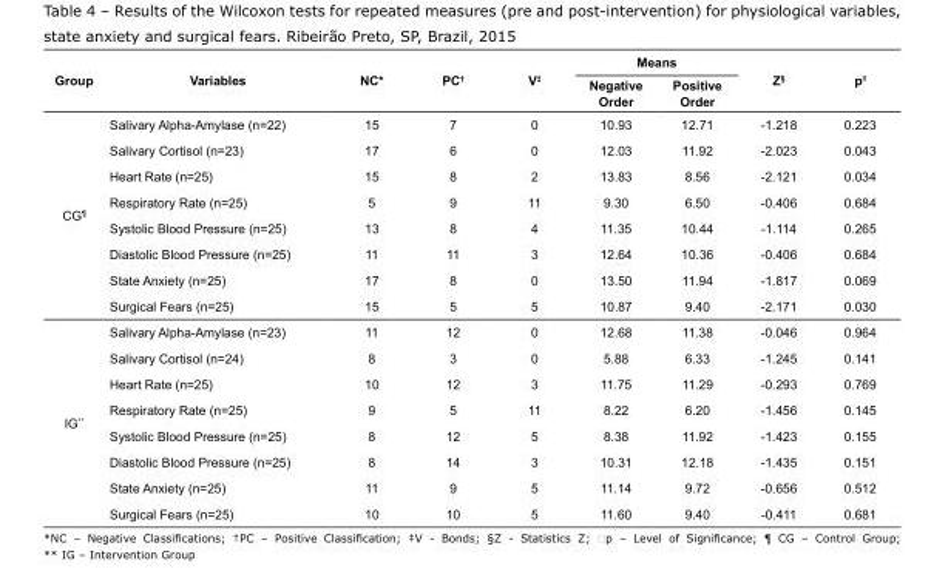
<table><tbody><tr><td rowspan="2">Group</td><td rowspan="2">Variables</td><td rowspan="2">NC*</td><td rowspan="2">PC<sup>†</sup></td><td rowspan="2">V<sup>‡</sup></td><td colspan="2">Means</td><td rowspan="2">Z<sup>§</sup></td><td rowspan="2">p<sup>‖</sup></td></tr><tr><td>Negative Order</td><td>Positive Order</td></tr><tr><td rowspan="8">CG<sup>¶</sup></td><td>Salivary Alpha-Amylase (n=22)</td><td>15</td><td>7</td><td>0</td><td>10.93</td><td>12.71</td><td>-1.218</td><td>0.223</td></tr><tr><td>Salivary Cortisol (n=23)</td><td>17</td><td>6</td><td>0</td><td>12.03</td><td>11.92</td><td>-2.023</td><td>0.043</td></tr><tr><td>Heart Rate (n=25)</td><td>15</td><td>8</td><td>2</td><td>13.83</td><td>8.56</td><td>-2.121</td><td>0.034</td></tr><tr><td>Respiratory Rate (n=25)</td><td>5</td><td>9</td><td>11</td><td>9.30</td><td>6.50</td><td>-0.406</td><td>0.684</td></tr><tr><td>Systolic Blood Pressure (n=25)</td><td>13</td><td>8</td><td>4</td><td>11.35</td><td>10.44</td><td>-1.114</td><td>0.265</td></tr><tr><td>Diastolic Blood Pressure (n=25)</td><td>11</td><td>11</td><td>3</td><td>12.64</td><td>10.36</td><td>-0.406</td><td>0.684</td></tr><tr><td>State Anxiety (n=25)</td><td>17</td><td>8</td><td>0</td><td>13.50</td><td>11.94</td><td>-1.817</td><td>0.069</td></tr><tr><td>Surgical Fears (n=25)</td><td>15</td><td>5</td><td>5</td><td>10.87</td><td>9.40</td><td>-2.171</td><td>0.030</td></tr><tr><td rowspan="8">IG**</td><td>Salivary Alpha-Amylase (n=23)</td><td>11</td><td>12</td><td>0</td><td>12.68</td><td>11.38</td><td>-0.046</td><td>0.964</td></tr><tr><td>Salivary Cortisol (n=24)</td><td>8</td><td>3</td><td>0</td><td>5.88</td><td>6.33</td><td>-1.245</td><td>0.141</td></tr><tr><td>Heart Rate (n=25)</td><td>10</td><td>12</td><td>3</td><td>11.75</td><td>11.29</td><td>-0.293</td><td>0.769</td></tr><tr><td>Respiratory Rate (n=25)</td><td>9</td><td>5</td><td>11</td><td>8.22</td><td>6.20</td><td>-1.456</td><td>0.145</td></tr><tr><td>Systolic Blood Pressure (n=25)</td><td>8</td><td>12</td><td>5</td><td>8.38</td><td>11.92</td><td>-1.423</td><td>0.155</td></tr><tr><td>Diastolic Blood Pressure (n=25)</td><td>8</td><td>14</td><td>3</td><td>10.31</td><td>12.18</td><td>-1.435</td><td>0.151</td></tr><tr><td>State Anxiety (n=25)</td><td>11</td><td>9</td><td>5</td><td>11.14</td><td>9.72</td><td>-0.656</td><td>0.512</td></tr><tr><td>Surgical Fears (n=25)</td><td>10</td><td>10</td><td>5</td><td>11.60</td><td>9.40</td><td>-0.411</td><td>0.681</td></tr></tbody></table>